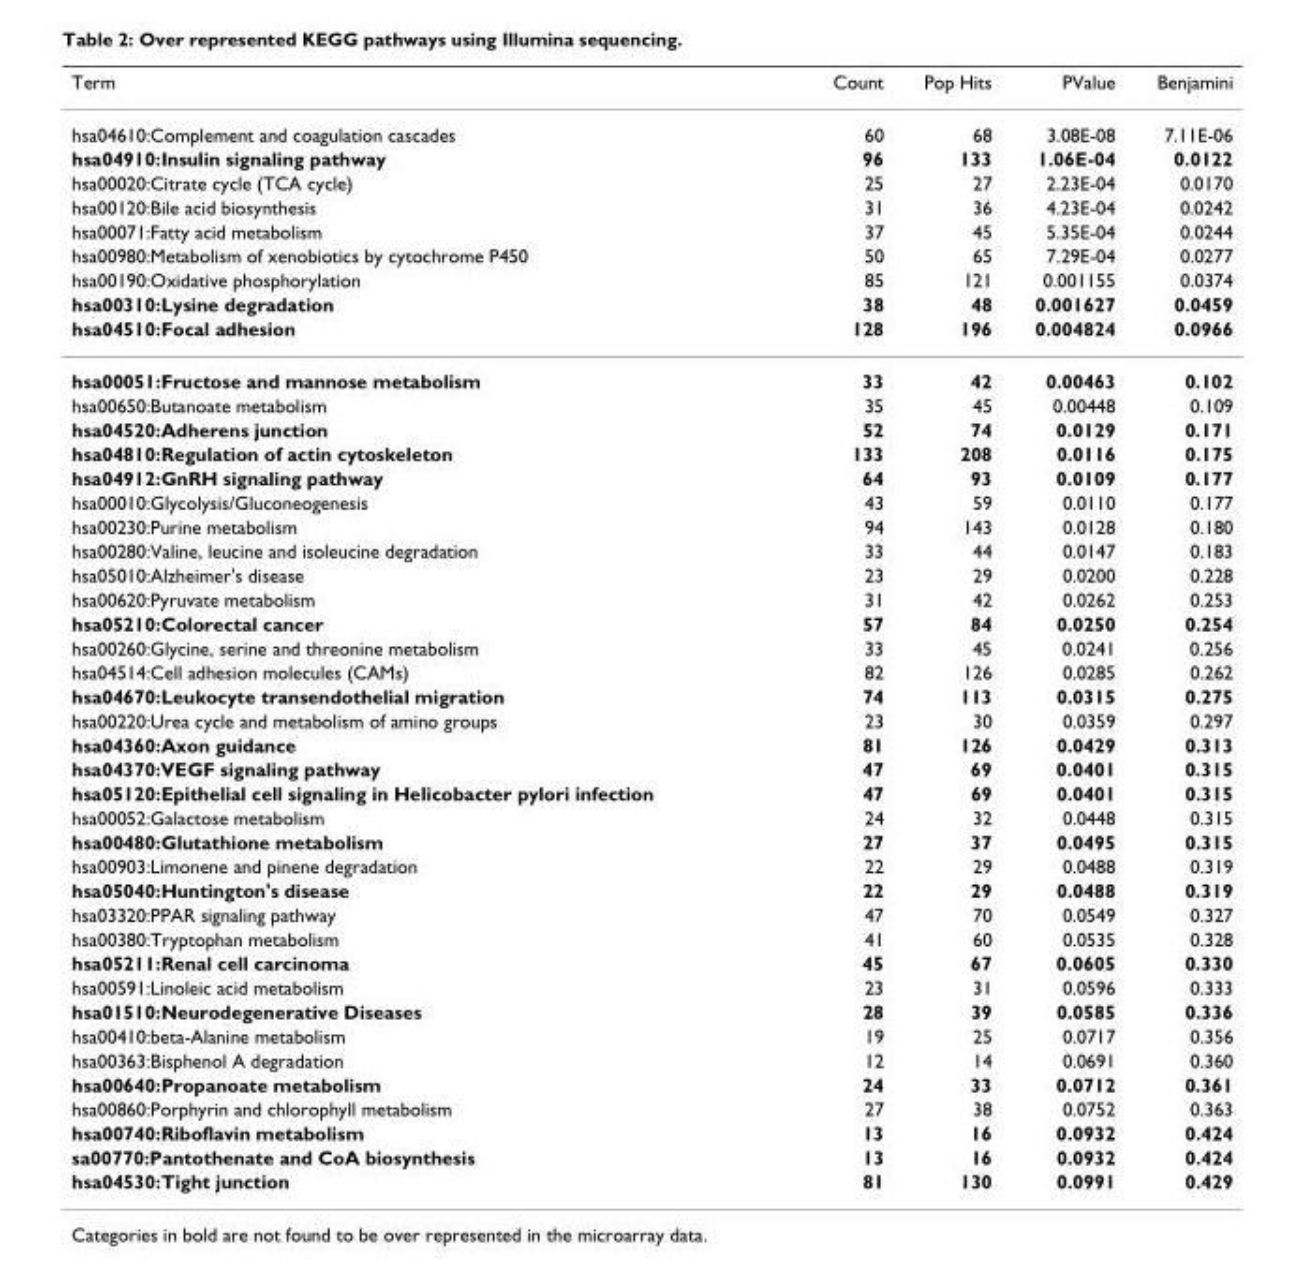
<table><thead><tr><td>Term</td><td>Count</td><td>Pop Hits</td><td>PValue</td><td>Benjamini</td></tr></thead><tbody><tr><td>hsa04610:Complement and coagulation cascades</td><td>60</td><td>68</td><td>3.08E-08</td><td>7.11E-06</td></tr><tr><td>hsa04910:Insulin signaling pathway</td><td>96</td><td>133</td><td>1.06E-04</td><td>0.0122</td></tr><tr><td>hsa00020:Citrate cycle (TCA cycle)</td><td>25</td><td>27</td><td>2.23E-04</td><td>0.0170</td></tr><tr><td>hsa00120:Bile acid biosynthesis</td><td>31</td><td>36</td><td>4.23E-04</td><td>0.0242</td></tr><tr><td>hsa00071:Fatty acid metabolism</td><td>37</td><td>45</td><td>5.35E-04</td><td>0.0244</td></tr><tr><td>hsa00980:Metabolism of xenobiotics by cytochrome P450</td><td>50</td><td>65</td><td>7.29E-04</td><td>0.0277</td></tr><tr><td>hsa00190:Oxidative phosphorylation</td><td>85</td><td>121</td><td>0.001155</td><td>0.0374</td></tr><tr><td>hsa00310:Lysine degradation</td><td>38</td><td>48</td><td>0.001627</td><td>0.0459</td></tr><tr><td>hsa04510:Focal adhesion</td><td>128</td><td>196</td><td>0.004824</td><td>0.0966</td></tr><tr><td>hsa00051:Fructose and mannose metabolism</td><td>33</td><td>42</td><td>0.00463</td><td>0.102</td></tr><tr><td>hsa00650:Butanoate metabolism</td><td>35</td><td>45</td><td>0.00448</td><td>0.109</td></tr><tr><td>hsa04520:Adherens junction</td><td>52</td><td>74</td><td>0.0129</td><td>0.171</td></tr><tr><td>hsa04810:Regulation of actin cytoskeleton</td><td>133</td><td>208</td><td>0.0116</td><td>0.175</td></tr><tr><td>hsa04912:GnRH signaling pathway</td><td>64</td><td>93</td><td>0.0109</td><td>0.177</td></tr><tr><td>hsa00010:Glycolysis/Gluconeogenesis</td><td>43</td><td>59</td><td>0.0110</td><td>0.177</td></tr><tr><td>hsa00230:Purine metabolism</td><td>94</td><td>143</td><td>0.0128</td><td>0.180</td></tr><tr><td>hsa00280:Valine, leucine and isoleucine degradation</td><td>33</td><td>44</td><td>0.0147</td><td>0.183</td></tr><tr><td>hsa05010:Alzheimer&#x27;s disease</td><td>23</td><td>29</td><td>0.0200</td><td>0.228</td></tr><tr><td>hsa00620:Pyruvate metabolism</td><td>31</td><td>42</td><td>0.0262</td><td>0.253</td></tr><tr><td>hsa05210:Colorectal cancer</td><td>57</td><td>84</td><td>0.0250</td><td>0.254</td></tr><tr><td>hsa00260:Glycine, serine and threonine metabolism</td><td>33</td><td>45</td><td>0.0241</td><td>0.256</td></tr><tr><td>hsa04514:Cell adhesion molecules (CAMs)</td><td>82</td><td>126</td><td>0.0285</td><td>0.262</td></tr><tr><td>hsa04670:Leukocyte transendothelial migration</td><td>74</td><td>113</td><td>0.0315</td><td>0.275</td></tr><tr><td>hsa00220:Urea cycle and metabolism of amino groups</td><td>23</td><td>30</td><td>0.0359</td><td>0.297</td></tr><tr><td>hsa04360:Axon guidance</td><td>81</td><td>126</td><td>0.0429</td><td>0.313</td></tr><tr><td>hsa04370:VEGF signaling pathway</td><td>47</td><td>69</td><td>0.0401</td><td>0.315</td></tr><tr><td>hsa05120:Epithelial cell signaling in Helicobacter pylori infection</td><td>47</td><td>69</td><td>0.0401</td><td>0.315</td></tr><tr><td>hsa00052:Galactose metabolism</td><td>24</td><td>32</td><td>0.0448</td><td>0.315</td></tr><tr><td>hsa00480:Glutathione metabolism</td><td>27</td><td>37</td><td>0.0495</td><td>0.315</td></tr><tr><td>hsa00903:Limonene and pinene degradation</td><td>22</td><td>29</td><td>0.0488</td><td>0.319</td></tr><tr><td>hsa05040:Huntington&#x27;s disease</td><td>22</td><td>29</td><td>0.0488</td><td>0.319</td></tr><tr><td>hsa03320:PPAR signaling pathway</td><td>47</td><td>70</td><td>0.0549</td><td>0.327</td></tr><tr><td>hsa00380:Tryptophan metabolism</td><td>41</td><td>60</td><td>0.0535</td><td>0.328</td></tr><tr><td>hsa05211:Renal cell carcinoma</td><td>45</td><td>67</td><td>0.0605</td><td>0.330</td></tr><tr><td>hsa00591:Linoleic acid metabolism</td><td>23</td><td>31</td><td>0.0596</td><td>0.333</td></tr><tr><td>hsa01510:Neurodegenerative Diseases</td><td>28</td><td>39</td><td>0.0585</td><td>0.336</td></tr><tr><td>hsa00410:beta-Alanine metabolism</td><td>19</td><td>25</td><td>0.0717</td><td>0.356</td></tr><tr><td>hsa00363:Bisphenol A degradation</td><td>12</td><td>14</td><td>0.0691</td><td>0.360</td></tr><tr><td>hsa00640:Propanoate metabolism</td><td>24</td><td>33</td><td>0.0712</td><td>0.361</td></tr><tr><td>hsa00860:Porphyrin and chlorophyll metabolism</td><td>27</td><td>38</td><td>0.0752</td><td>0.363</td></tr><tr><td>hsa00740:Riboflavin metabolism</td><td>13</td><td>16</td><td>0.0932</td><td>0.424</td></tr><tr><td>sa00770:Pantothenate and CoA biosynthesis</td><td>13</td><td>16</td><td>0.0932</td><td>0.424</td></tr><tr><td>hsa04530:Tight junction</td><td>81</td><td>130</td><td>0.0991</td><td>0.429</td></tr></tbody></table>